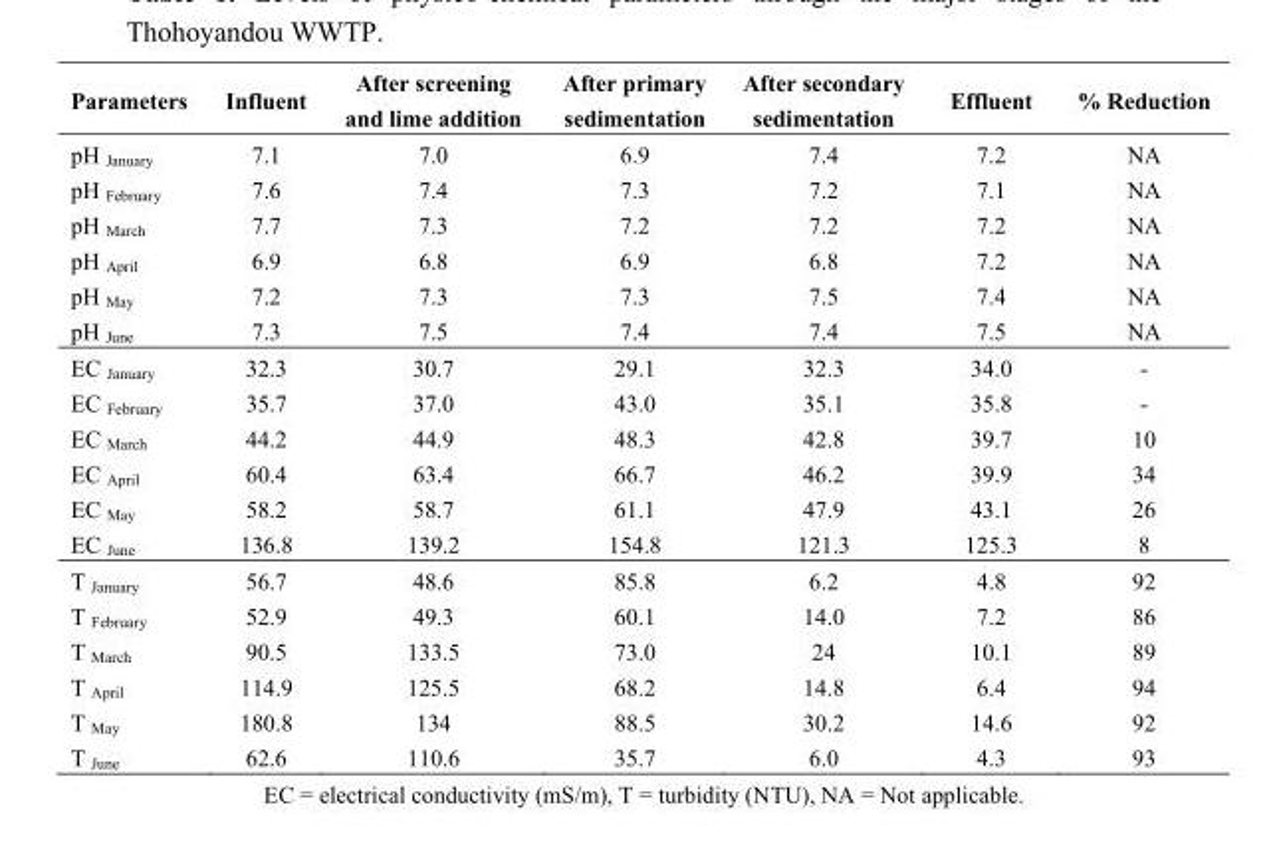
<table><thead><tr><td>Parameters</td><td>Influent</td><td>After screening and lime addition</td><td>After primary sedimentation</td><td>After secondary sedimentation</td><td>Effluent</td><td>% Reduction</td></tr></thead><tbody><tr><td>pH <sub>January</sub></td><td>7.1</td><td>7.0</td><td>6.9</td><td>7.4</td><td>7.2</td><td>NA</td></tr><tr><td>pH <sub>February</sub></td><td>7.6</td><td>7.4</td><td>7.3</td><td>7.2</td><td>7.1</td><td>NA</td></tr><tr><td>pH <sub>March</sub></td><td>7.7</td><td>7.3</td><td>7.2</td><td>7.2</td><td>7.2</td><td>NA</td></tr><tr><td>pH <sub>April</sub></td><td>6.9</td><td>6.8</td><td>6.9</td><td>6.8</td><td>7.2</td><td>NA</td></tr><tr><td>pH <sub>May</sub></td><td>7.2</td><td>7.3</td><td>7.3</td><td>7.5</td><td>7.4</td><td>NA</td></tr><tr><td>pH <sub>June</sub></td><td>7.3</td><td>7.5</td><td>7.4</td><td>7.4</td><td>7.5</td><td>NA</td></tr><tr><td>EC <sub>January</sub></td><td>32.3</td><td>30.7</td><td>29.1</td><td>32.3</td><td>34.0</td><td>-</td></tr><tr><td>EC <sub>February</sub></td><td>35.7</td><td>37.0</td><td>43.0</td><td>35.1</td><td>35.8</td><td>-</td></tr><tr><td>EC <sub>March</sub></td><td>44.2</td><td>44.9</td><td>48.3</td><td>42.8</td><td>39.7</td><td>10</td></tr><tr><td>EC <sub>April</sub></td><td>60.4</td><td>63.4</td><td>66.7</td><td>46.2</td><td>39.9</td><td>34</td></tr><tr><td>EC <sub>May</sub></td><td>58.2</td><td>58.7</td><td>61.1</td><td>47.9</td><td>43.1</td><td>26</td></tr><tr><td>EC <sub>June</sub></td><td>136.8</td><td>139.2</td><td>154.8</td><td>121.3</td><td>125.3</td><td>8</td></tr><tr><td>T <sub>January</sub></td><td>56.7</td><td>48.6</td><td>85.8</td><td>6.2</td><td>4.8</td><td>92</td></tr><tr><td>T <sub>February</sub></td><td>52.9</td><td>49.3</td><td>60.1</td><td>14.0</td><td>7.2</td><td>86</td></tr><tr><td>T <sub>March</sub></td><td>90.5</td><td>133.5</td><td>73.0</td><td>24</td><td>10.1</td><td>89</td></tr><tr><td>T <sub>April</sub></td><td>114.9</td><td>125.5</td><td>68.2</td><td>14.8</td><td>6.4</td><td>94</td></tr><tr><td>T <sub>May</sub></td><td>180.8</td><td>134</td><td>88.5</td><td>30.2</td><td>14.6</td><td>92</td></tr><tr><td>T <sub>June</sub></td><td>62.6</td><td>110.6</td><td>35.7</td><td>6.0</td><td>4.3</td><td>93</td></tr></tbody></table>